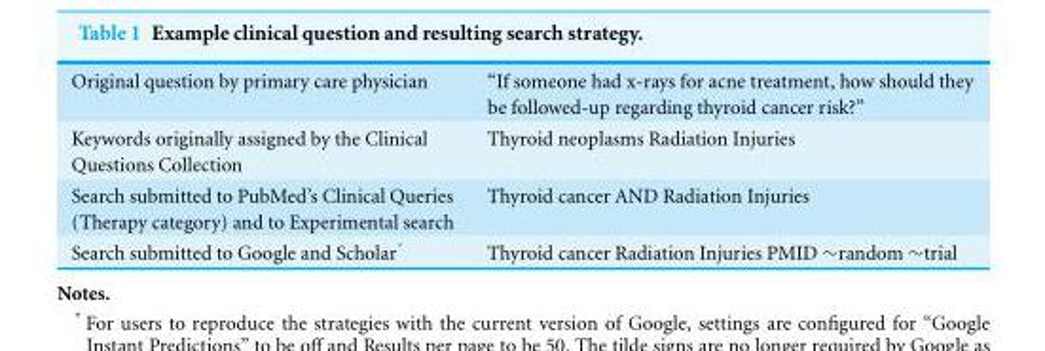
<table><tbody><tr><td>Original question by primary care physician</td><td>“If someone had x-rays for acne treatment, how should they be followed-up regarding thyroid cancer risk?”</td></tr><tr><td>Keywords originally assigned by the Clinical Questions Collection</td><td>Thyroid neoplasms Radiation Injuries</td></tr><tr><td>Search submitted to PubMed’s Clinical Queries (Therapy category) and to Experimental search</td><td>Thyroid cancer AND Radiation Injuries</td></tr><tr><td>Search submitted to Google and Scholar*</td><td>Thyroid cancer Radiation Injuries PMID ∼random ∼trial</td></tr></tbody></table>